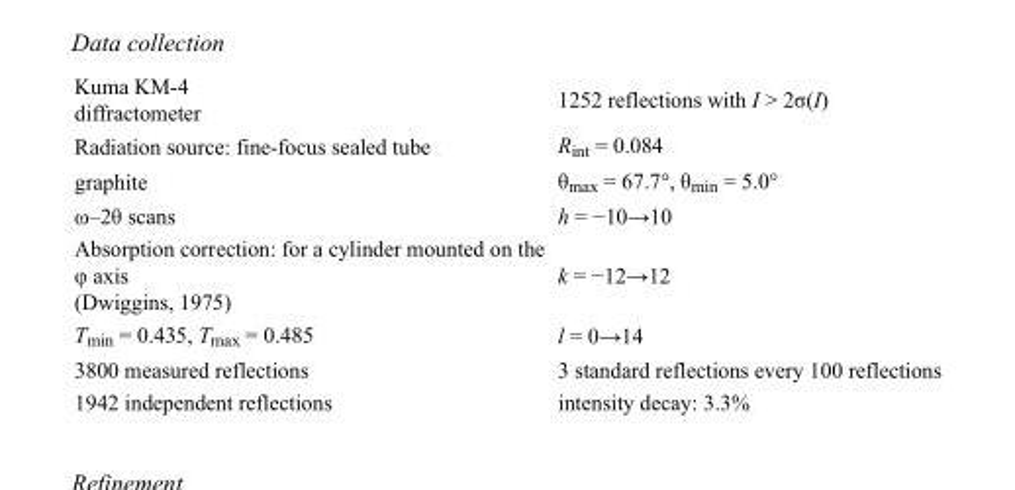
<table><tbody><tr><td>Kuma KM-4 diffractometer</td><td>1252 reflections with I &gt; 2σ(I)</td></tr><tr><td>Radiation source: fine-focus sealed tube</td><td>R<sub>int</sub> = 0.084</td></tr><tr><td>graphite</td><td>θ<sub>max</sub> = 67.7°, θ<sub>min</sub> = 5.0°</td></tr><tr><td>ω–2θ scans</td><td>h = −10→10</td></tr><tr><td>Absorption correction: for a cylinder mounted on the φ axis (Dwiggins, 1975)</td><td>k = −12→12</td></tr><tr><td>T<sub>min</sub> = 0.435, T<sub>max</sub> = 0.485</td><td>l = 0→14</td></tr><tr><td>3800 measured reflections</td><td>3 standard reflections every 100 reflections</td></tr><tr><td>1942 independent reflections</td><td>intensity decay: 3.3%</td></tr></tbody></table>